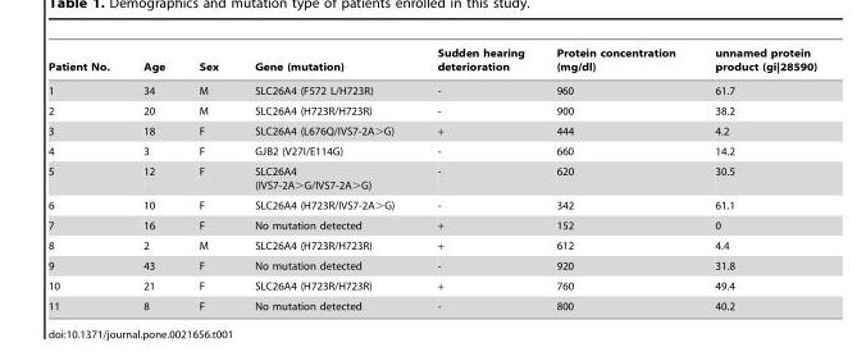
<table><thead><tr><td>Patient No.</td><td>Age</td><td>Sex</td><td>Gene (mutation)</td><td>Sudden hearing deterioration</td><td>Protein concentration (mg/dl)</td><td>unnamed protein product (gi|28590)</td></tr></thead><tbody><tr><td>1</td><td>34</td><td>M</td><td>SLC26A4 (F572 L/H723R)</td><td>-</td><td>960</td><td>61.7</td></tr><tr><td>2</td><td>20</td><td>M</td><td>SLC26A4 (H723R/H723R)</td><td>-</td><td>900</td><td>38.2</td></tr><tr><td>3</td><td>18</td><td>F</td><td>SLC26A4 (L676Q/IVS7-2A&gt;G)</td><td>+</td><td>444</td><td>4.2</td></tr><tr><td>4</td><td>3</td><td>F</td><td>GJB2 (V27I/E114G)</td><td>-</td><td>660</td><td>14.2</td></tr><tr><td>5</td><td>12</td><td>F</td><td>SLC26A4 (IVS7-2A&gt;G/IVS7-2A&gt;G)</td><td>-</td><td>620</td><td>30.5</td></tr><tr><td>6</td><td>10</td><td>F</td><td>SLC26A4 (H723R/IVS7-2A&gt;G)</td><td>-</td><td>342</td><td>61.1</td></tr><tr><td>7</td><td>16</td><td>F</td><td>No mutation detected</td><td>+</td><td>152</td><td>0</td></tr><tr><td>8</td><td>2</td><td>M</td><td>SLC26A4 (H723R/H723R)</td><td>+</td><td>612</td><td>4.4</td></tr><tr><td>9</td><td>43</td><td>F</td><td>No mutation detected</td><td>-</td><td>920</td><td>31.8</td></tr><tr><td>10</td><td>21</td><td>F</td><td>SLC26A4 (H723R/H723R)</td><td>+</td><td>760</td><td>49.4</td></tr><tr><td>11</td><td>8</td><td>F</td><td>No mutation detected</td><td>-</td><td>800</td><td>40.2</td></tr></tbody></table>